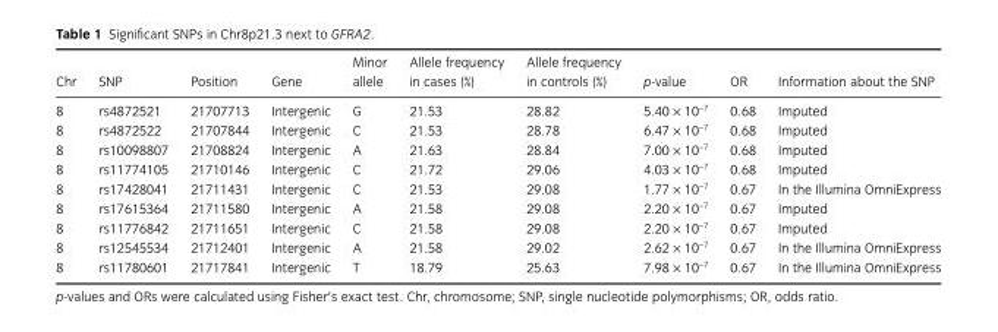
<table><thead><tr><td>Chr</td><td>SNP</td><td>Position</td><td>Gene</td><td>Minor allele</td><td>Allele frequency in cases (%)</td><td>Allele frequency in controls (%)</td><td>p-value</td><td>OR</td><td>Information about the SNP</td></tr></thead><tbody><tr><td>8</td><td>rs4872521</td><td>21707713</td><td>Intergenic</td><td>G</td><td>21.53</td><td>28.82</td><td>5.40 × 10<sup>−7</sup></td><td>0.68</td><td>Imputed</td></tr><tr><td>8</td><td>rs4872522</td><td>21707844</td><td>Intergenic</td><td>C</td><td>21.53</td><td>28.78</td><td>6.47 × 10<sup>−7</sup></td><td>0.68</td><td>Imputed</td></tr><tr><td>8</td><td>rs10098807</td><td>21708824</td><td>Intergenic</td><td>A</td><td>21.63</td><td>28.84</td><td>7.00 × 10<sup>−7</sup></td><td>0.68</td><td>Imputed</td></tr><tr><td>8</td><td>rs11774105</td><td>21710146</td><td>Intergenic</td><td>C</td><td>21.72</td><td>29.06</td><td>4.03 × 10<sup>−7</sup></td><td>0.68</td><td>Imputed</td></tr><tr><td>8</td><td>rs17428041</td><td>21711431</td><td>Intergenic</td><td>C</td><td>21.53</td><td>29.08</td><td>1.77 × 10<sup>−7</sup></td><td>0.67</td><td>In the Illumina OmniExpress</td></tr><tr><td>8</td><td>rs17615364</td><td>21711580</td><td>Intergenic</td><td>A</td><td>21.58</td><td>29.08</td><td>2.20 × 10<sup>−7</sup></td><td>0.67</td><td>Imputed</td></tr><tr><td>8</td><td>rs11776842</td><td>21711651</td><td>Intergenic</td><td>C</td><td>21.58</td><td>29.08</td><td>2.20 × 10<sup>−7</sup></td><td>0.67</td><td>Imputed</td></tr><tr><td>8</td><td>rs12545534</td><td>21712401</td><td>Intergenic</td><td>A</td><td>21.58</td><td>29.02</td><td>2.62 × 10<sup>−7</sup></td><td>0.67</td><td>In the Illumina OmniExpress</td></tr><tr><td>8</td><td>rs11780601</td><td>21717841</td><td>Intergenic</td><td>T</td><td>18.79</td><td>25.63</td><td>7.98 × 10<sup>−7</sup></td><td>0.67</td><td>In the Illumina OmniExpress</td></tr></tbody></table>